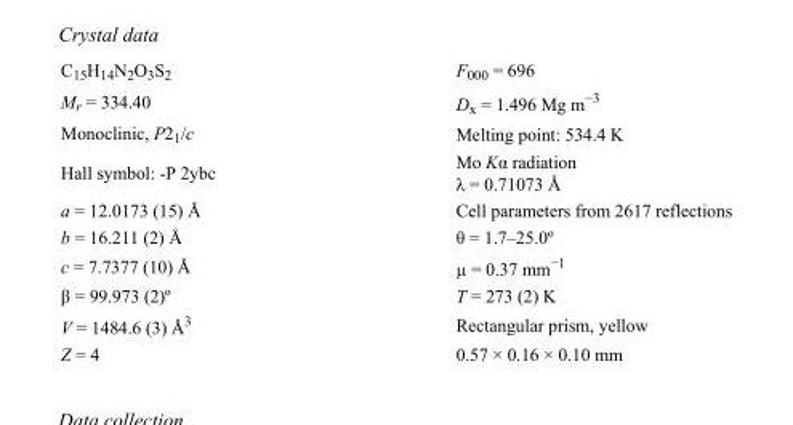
<table><tbody><tr><td>C<sub>15</sub>H<sub>14</sub>N<sub>2</sub>O<sub>3</sub>S<sub>2</sub></td><td>F<sub>000</sub> = 696</td></tr><tr><td>M<sub>r</sub> = 334.40</td><td>D<sub>x</sub> = 1.496 Mg m<sup>−3</sup></td></tr><tr><td>Monoclinic, P2<sub>1</sub>/c</td><td>Melting point: 534.4 K</td></tr><tr><td>Hall symbol: -P 2ybc</td><td>Mo Kα radiation λ = 0.71073 Å</td></tr><tr><td>a = 12.0173 (15) Å</td><td>Cell parameters from 2617 reflections</td></tr><tr><td>b = 16.211 (2) Å</td><td>θ = 1.7–25.0º</td></tr><tr><td>c = 7.7377 (10) Å</td><td>µ = 0.37 mm<sup>−1</sup></td></tr><tr><td>β = 99.973 (2)º</td><td>T = 273 (2) K</td></tr><tr><td>V = 1484.6 (3) Å<sup>3</sup></td><td>Rectangular prism, yellow</td></tr><tr><td>Z = 4</td><td>0.57 × 0.16 × 0.10 mm</td></tr></tbody></table>